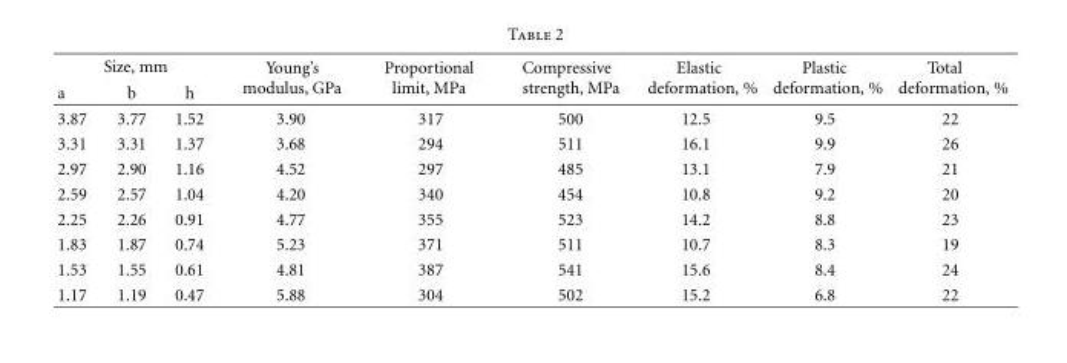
<table><thead><tr><td colspan="3">Size, mm</td><td rowspan="2">Young’s modulus, GPa</td><td rowspan="2">Proportional limit, MPa</td><td rowspan="2">Compressive strength, MPa</td><td rowspan="2">Elastic deformation, %</td><td rowspan="2">Plastic deformation, %</td><td rowspan="2">Total deformation, %</td></tr><tr><td>a</td><td>b</td><td>h</td></tr></thead><tbody><tr><td>3.87</td><td>3.77</td><td>1.52</td><td>3.90</td><td>317</td><td>500</td><td>12.5</td><td>9.5</td><td>22</td></tr><tr><td>3.31</td><td>3.31</td><td>1.37</td><td>3.68</td><td>294</td><td>511</td><td>16.1</td><td>9.9</td><td>26</td></tr><tr><td>2.97</td><td>2.90</td><td>1.16</td><td>4.52</td><td>297</td><td>485</td><td>13.1</td><td>7.9</td><td>21</td></tr><tr><td>2.59</td><td>2.57</td><td>1.04</td><td>4.20</td><td>340</td><td>454</td><td>10.8</td><td>9.2</td><td>20</td></tr><tr><td>2.25</td><td>2.26</td><td>0.91</td><td>4.77</td><td>355</td><td>523</td><td>14.2</td><td>8.8</td><td>23</td></tr><tr><td>1.83</td><td>1.87</td><td>0.74</td><td>5.23</td><td>371</td><td>511</td><td>10.7</td><td>8.3</td><td>19</td></tr><tr><td>1.53</td><td>1.55</td><td>0.61</td><td>4.81</td><td>387</td><td>541</td><td>15.6</td><td>8.4</td><td>24</td></tr><tr><td>1.17</td><td>1.19</td><td>0.47</td><td>5.88</td><td>304</td><td>502</td><td>15.2</td><td>6.8</td><td>22</td></tr></tbody></table>